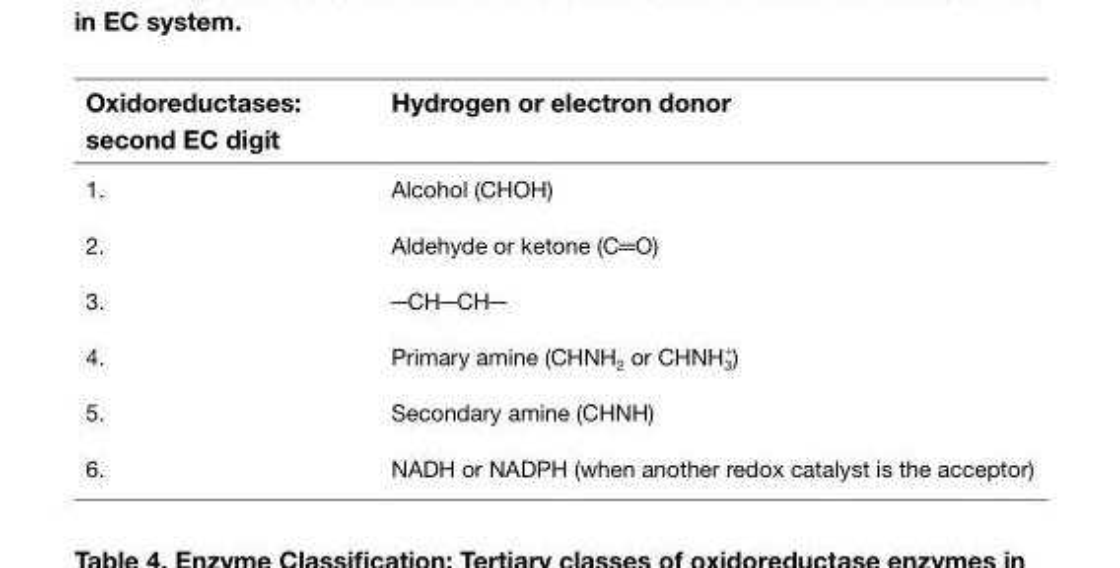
<table><thead><tr><td>Oxidoreductases: second EC digit</td><td>Hydrogen or electron donor</td></tr></thead><tbody><tr><td>1.</td><td>Alcohol (CHOH)</td></tr><tr><td>2.</td><td>Aldehyde or ketone (C═O)</td></tr><tr><td>3.</td><td>─CH─CH─</td></tr><tr><td>4.</td><td>Primary amine (CHNH<sub>2</sub> or CHNH<sub>3</sub> <sup>+</sup>)</td></tr><tr><td>5.</td><td>Secondary amine (CHNH)</td></tr><tr><td>6.</td><td>NADH or NADPH (when another redox catalyst is the acceptor)</td></tr></tbody></table>